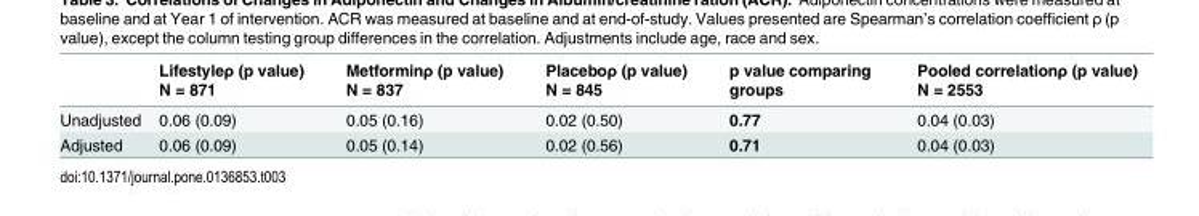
<table><thead><tr><td></td><td>Lifestyleρ (p value) N = 871</td><td>Metforminρ (p value) N = 837</td><td>Placeboρ (p value) N = 845</td><td>p value comparing groups</td><td>Pooled correlationρ (p value) N = 2553</td></tr></thead><tbody><tr><td>Unadjusted</td><td>0.06 (0.09)</td><td>0.05 (0.16)</td><td>0.02 (0.50)</td><td>0.77</td><td>0.04 (0.03)</td></tr><tr><td>Adjusted</td><td>0.06 (0.09)</td><td>0.05 (0.14)</td><td>0.02 (0.56)</td><td>0.71</td><td>0.04 (0.03)</td></tr></tbody></table>